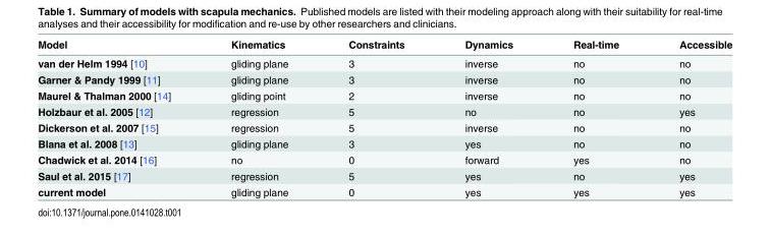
<table><thead><tr><td>Model</td><td>Kinematics</td><td>Constraints</td><td>Dynamics</td><td>Real-time</td><td>Accessible</td></tr></thead><tbody><tr><td>van der Helm 1994 [10]</td><td>gliding plane</td><td>3</td><td>inverse</td><td>no</td><td>no</td></tr><tr><td>Garner &amp; Pandy 1999 [11]</td><td>gliding plane</td><td>3</td><td>inverse</td><td>no</td><td>no</td></tr><tr><td>Maurel &amp; Thalman 2000 [14]</td><td>gliding point</td><td>2</td><td>inverse</td><td>no</td><td>no</td></tr><tr><td>Holzbaur et al. 2005 [12]</td><td>regression</td><td>5</td><td>no</td><td>no</td><td>yes</td></tr><tr><td>Dickerson et al. 2007 [15]</td><td>regression</td><td>5</td><td>inverse</td><td>no</td><td>no</td></tr><tr><td>Blana et al. 2008 [13]</td><td>gliding plane</td><td>3</td><td>yes</td><td>no</td><td>no</td></tr><tr><td>Chadwick et al. 2014 [16]</td><td>no</td><td>0</td><td>forward</td><td>yes</td><td>no</td></tr><tr><td>Saul et al. 2015 [17]</td><td>regression</td><td>5</td><td>yes</td><td>no</td><td>yes</td></tr><tr><td>current model</td><td>gliding plane</td><td>0</td><td>yes</td><td>yes</td><td>yes</td></tr></tbody></table>